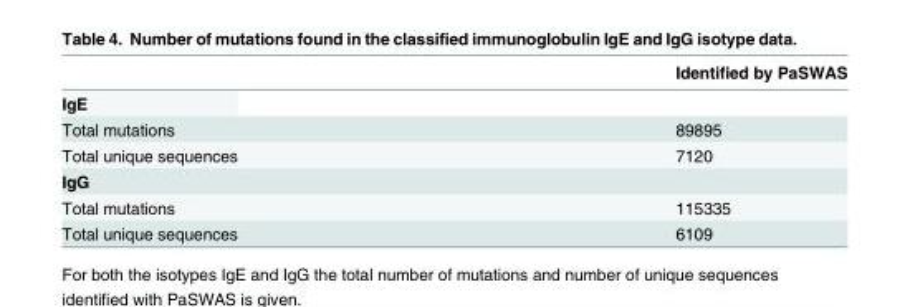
<table><thead><tr><td></td><td>Identified by PaSWAS</td></tr></thead><tbody><tr><td colspan="2">IgE</td></tr><tr><td>Total mutations</td><td>89895</td></tr><tr><td>Total unique sequences</td><td>7120</td></tr><tr><td colspan="2">IgG</td></tr><tr><td>Total mutations</td><td>115335</td></tr><tr><td>Total unique sequences</td><td>6109</td></tr></tbody></table>